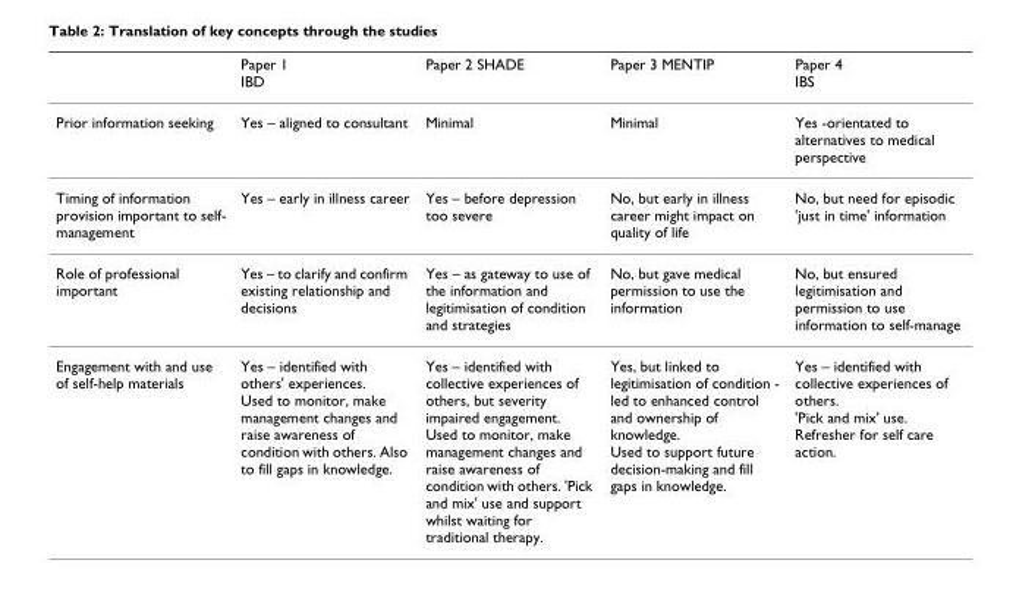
<table><thead><tr><td></td><td>Paper 1 IBD</td><td>Paper 2 SHADE</td><td>Paper 3 MENTIP</td><td>Paper 4 IBS</td></tr></thead><tbody><tr><td>Prior information seeking</td><td>Yes – aligned to consultant</td><td>Minimal</td><td>Minimal</td><td>Yes -orientated to alternatives to medical perspective</td></tr><tr><td>Timing of information provision important to self- management</td><td>Yes – early in illness career</td><td>Yes – before depression too severe</td><td>No, but early in illness career might impact on quality of life</td><td>No, but need for episodic &#x27;just in time&#x27; information</td></tr><tr><td>Role of professional important</td><td>Yes – to clarify and confirm existing relationship and decisions</td><td>Yes – as gateway to use of the information and legitimisation of condition and strategies</td><td>No, but gave medical permission to use the information</td><td>No, but ensured legitimisation and permission to use information to self-manage</td></tr><tr><td>Engagement with and use of self-help materials</td><td>Yes – identified with others&#x27; experiences. Used to monitor, make management changes and raise awareness of condition with others. Also to fill gaps in knowledge.</td><td>Yes – identified with collective experiences of others, but severity impaired engagement. Used to monitor, make management changes and raise awareness of condition with others. &#x27;Pick and mix&#x27; use and support whilst waiting for traditional therapy.</td><td>Yes, but linked to legitimisation of condition - led to enhanced control and ownership of knowledge. Used to support future decision-making and fill gaps in knowledge.</td><td>Yes – identified with collective experiences of others. &#x27;Pick and mix&#x27; use. Refresher for self care action.</td></tr></tbody></table>